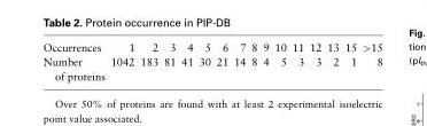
<table><tbody><tr><td>Occurrences</td><td>1</td><td>2</td><td>3</td><td>4</td><td>5</td><td>6</td><td>7</td><td>8</td><td>9</td><td>10</td><td>11</td><td>12</td><td>13</td><td>15</td><td>&gt;15</td></tr><tr><td>Number of proteins</td><td>1042</td><td>183</td><td>81</td><td>41</td><td>30</td><td>21</td><td>14</td><td>8</td><td>4</td><td>5</td><td>3</td><td>3</td><td>2</td><td>1</td><td>8</td></tr></tbody></table>